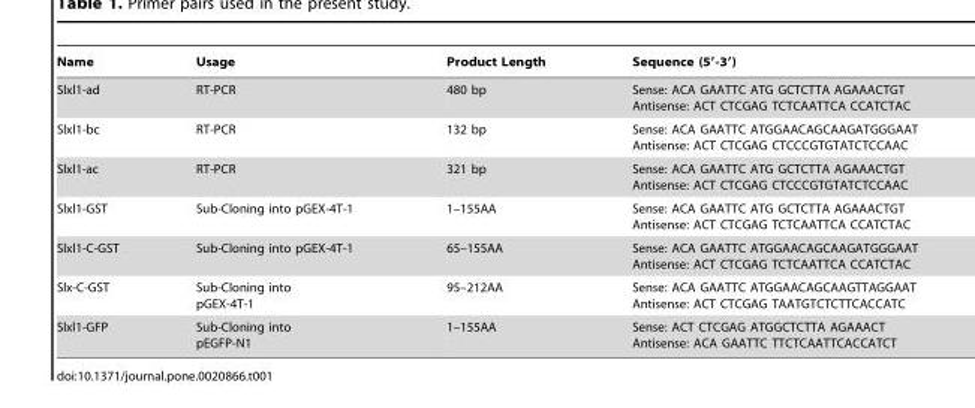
<table><thead><tr><td>Name</td><td>Usage</td><td>Product Length</td><td>Sequence (5′-3′)</td></tr></thead><tbody><tr><td>Slxl1-ad</td><td>RT-PCR</td><td>480 bp</td><td>Sense: ACA GAATTC ATG GCTCTTA AGAAACTGT Antisense: ACT CTCGAG TCTCAATTCA CCATCTAC</td></tr><tr><td>Slxl1-bc</td><td>RT-PCR</td><td>132 bp</td><td>Sense: ACA GAATTC ATGGAACAGCAAGATGGGAAT Antisense: ACT CTCGAG CTCCCGTGTATCTCCAAC</td></tr><tr><td>Slxl1-ac</td><td>RT-PCR</td><td>321 bp</td><td>Sense: ACA GAATTC ATG GCTCTTA AGAAACTGT Antisense: ACT CTCGAG CTCCCGTGTATCTCCAAC</td></tr><tr><td>Slxl1-GST</td><td>Sub-Cloning into pGEX-4T-1</td><td>1–155AA</td><td>Sense: ACA GAATTC ATG GCTCTTA AGAAACTGT Antisense: ACT CTCGAG TCTCAATTCA CCATCTAC</td></tr><tr><td>Slxl1-C-GST</td><td>Sub-Cloning into pGEX-4T-1</td><td>65–155AA</td><td>Sense: ACA GAATTC ATGGAACAGCAAGATGGGAAT Antisense: ACT CTCGAG TCTCAATTCA CCATCTAC</td></tr><tr><td>Slx-C-GST</td><td>Sub-Cloning into pGEX-4T-1</td><td>95–212AA</td><td>Sense: ACA GAATTC ATGGAACAGCAAGTTAGGAAT Antisense: ACT CTCGAG TAATGTCTCTTCACCATC</td></tr><tr><td>Slxl1-GFP</td><td>Sub-Cloning into pEGFP-N1</td><td>1–155AA</td><td>Sense: ACT CTCGAG ATGGCTCTTA AGAAACT Antisense: ACA GAATTC TTCTCAATTCACCATCT</td></tr></tbody></table>